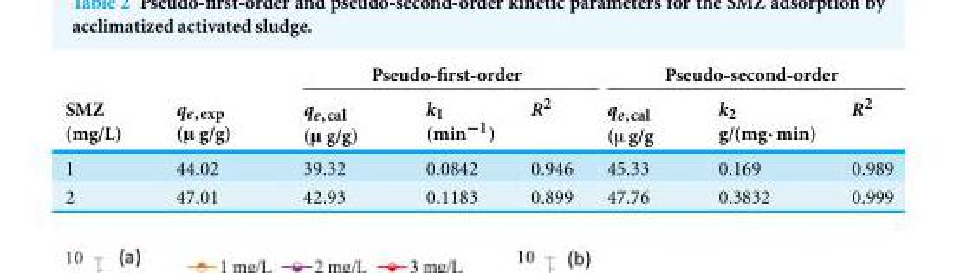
<table><thead><tr><td rowspan="2">SMZ (mg/L)</td><td rowspan="2">q<sub>e,exp</sub> (µ g/g)</td><td colspan="3">Pseudo-first-order</td><td colspan="3">Pseudo-second-order</td></tr><tr><td>q<sub>e,cal</sub> (µ g/g)</td><td>k<sub>1</sub> (min<sup>−1</sup>)</td><td>R<sup>2</sup></td><td>q<sub>e,cal</sub> (µ g/g</td><td>k2 g/(mg·min)</td><td>R<sup>2</sup></td></tr></thead><tbody><tr><td>1</td><td>44.02</td><td>39.32</td><td>0.0842</td><td>0.946</td><td>45.33</td><td>0.169</td><td>0.989</td></tr><tr><td>2</td><td>47.01</td><td>42.93</td><td>0.1183</td><td>0.899</td><td>47.76</td><td>0.3832</td><td>0.999</td></tr></tbody></table>